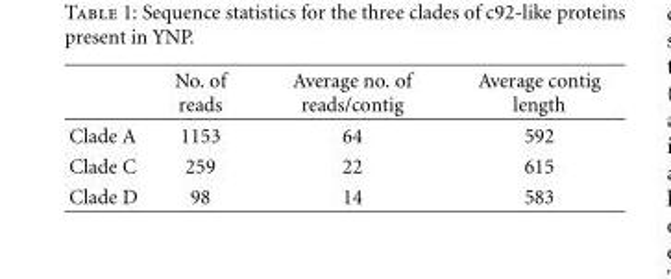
<table><thead><tr><td></td><td>No. of reads</td><td>Average no. of reads/contig</td><td>Average contig length</td></tr></thead><tbody><tr><td>Clade A</td><td>1153</td><td>64</td><td>592</td></tr><tr><td>Clade C</td><td>259</td><td>22</td><td>615</td></tr><tr><td>Clade D</td><td>98</td><td>14</td><td>583</td></tr></tbody></table>